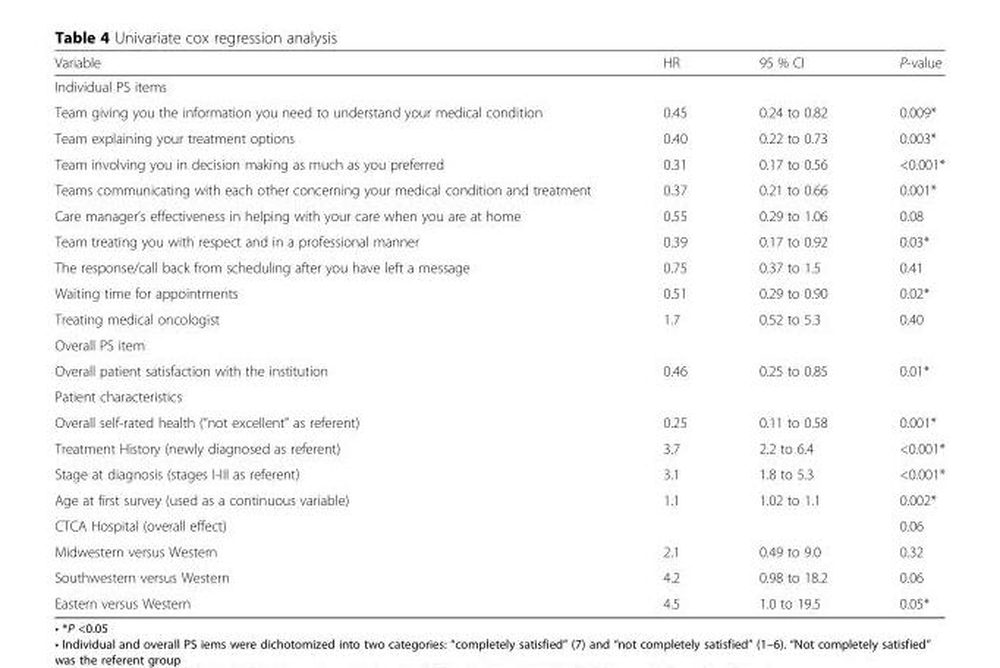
<table><thead><tr><td>Variable</td><td>HR</td><td>95 % CI</td><td>P-value</td></tr></thead><tbody><tr><td colspan="4">Individual PS items</td></tr><tr><td>Team giving you the information you need to understand your medical condition</td><td>0.45</td><td>0.24 to 0.82</td><td>0.009*</td></tr><tr><td>Team explaining your treatment options</td><td>0.40</td><td>0.22 to 0.73</td><td>0.003*</td></tr><tr><td>Team involving you in decision making as much as you preferred</td><td>0.31</td><td>0.17 to 0.56</td><td>&lt;0.001*</td></tr><tr><td>Teams communicating with each other concerning your medical condition and treatment</td><td>0.37</td><td>0.21 to 0.66</td><td>0.001*</td></tr><tr><td>Care manager’s effectiveness in helping with your care when you are at home</td><td>0.55</td><td>0.29 to 1.06</td><td>0.08</td></tr><tr><td>Team treating you with respect and in a professional manner</td><td>0.39</td><td>0.17 to 0.92</td><td>0.03*</td></tr><tr><td>The response/call back from scheduling after you have left a message</td><td>0.75</td><td>0.37 to 1.5</td><td>0.41</td></tr><tr><td>Waiting time for appointments</td><td>0.51</td><td>0.29 to 0.90</td><td>0.02*</td></tr><tr><td>Treating medical oncologist</td><td>1.7</td><td>0.52 to 5.3</td><td>0.40</td></tr><tr><td colspan="4">Overall PS item</td></tr><tr><td>Overall patient satisfaction with the institution</td><td>0.46</td><td>0.25 to 0.85</td><td>0.01*</td></tr><tr><td colspan="4">Patient characteristics</td></tr><tr><td>Overall self-rated health (“not excellent” as referent)</td><td>0.25</td><td>0.11 to 0.58</td><td>0.001*</td></tr><tr><td>Treatment History (newly diagnosed as referent)</td><td>3.7</td><td>2.2 to 6.4</td><td>&lt;0.001*</td></tr><tr><td>Stage at diagnosis (stages I-III as referent)</td><td>3.1</td><td>1.8 to 5.3</td><td>&lt;0.001*</td></tr><tr><td>Age at first survey (used as a continuous variable)</td><td>1.1</td><td>1.02 to 1.1</td><td>0.002*</td></tr><tr><td>CTCA Hospital (overall effect)</td><td></td><td></td><td>0.06</td></tr><tr><td>Midwestern versus Western</td><td>2.1</td><td>0.49 to 9.0</td><td>0.32</td></tr><tr><td>Southwestern versus Western</td><td>4.2</td><td>0.98 to 18.2</td><td>0.06</td></tr><tr><td>Eastern versus Western</td><td>4.5</td><td>1.0 to 19.5</td><td>0.05*</td></tr></tbody></table>